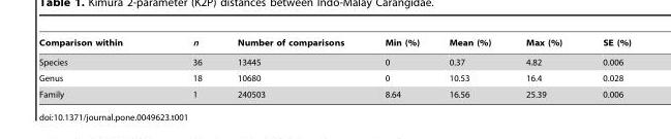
<table><thead><tr><td>Comparison within</td><td>n</td><td>Number of comparisons</td><td>Min (%)</td><td>Mean (%)</td><td>Max (%)</td><td>SE (%)</td></tr></thead><tbody><tr><td>Species</td><td>36</td><td>13445</td><td>0</td><td>0.37</td><td>4.82</td><td>0.006</td></tr><tr><td>Genus</td><td>18</td><td>10680</td><td>0</td><td>10.53</td><td>16.4</td><td>0.028</td></tr><tr><td>Family</td><td>1</td><td>240503</td><td>8.64</td><td>16.56</td><td>25.39</td><td>0.006</td></tr></tbody></table>